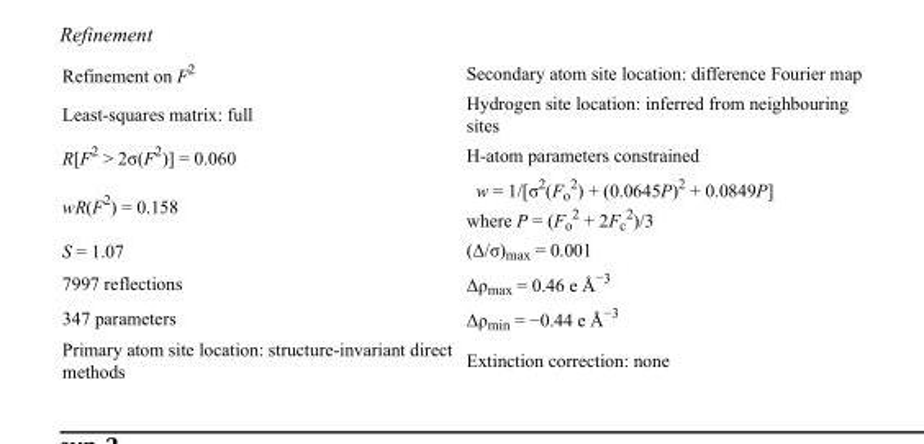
<table><tbody><tr><td>Refinement on F<sup>2</sup></td><td>Secondary atom site location: difference Fourier map</td></tr><tr><td>Least-squares matrix: full</td><td>Hydrogen site location: inferred from neighbouring sites</td></tr><tr><td>R[F<sup>2</sup> &gt; 2σ(F<sup>2</sup>)] = 0.060</td><td>H-atom parameters constrained</td></tr><tr><td>wR(F<sup>2</sup>) = 0.158</td><td>w = 1/[σ<sup>2</sup>(F<sub>o</sub> <sup>2</sup>) + (0.0645P)<sup>2</sup> + 0.0849P] where P = (F<sub>o</sub> <sup>2</sup> + 2F<sub>c</sub> <sup>2</sup>)/3</td></tr><tr><td>S = 1.07</td><td>(Δ/σ)<sub>max</sub> = 0.001</td></tr><tr><td>7997 reflections</td><td>Δρ<sub>max</sub> = 0.46 e Å<sup>−3</sup></td></tr><tr><td>347 parameters</td><td>Δρ<sub>min</sub> = −0.44 e Å<sup>−3</sup></td></tr><tr><td>Primary atom site location: structure-invariant direct methods</td><td>Extinction correction: none</td></tr></tbody></table>